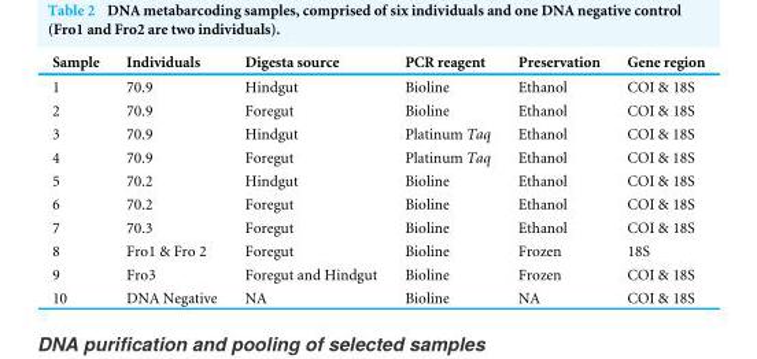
<table><thead><tr><td>Sample</td><td>Individuals</td><td>Digesta source</td><td>PCR reagent</td><td>Preservation</td><td>Gene region</td></tr></thead><tbody><tr><td>1</td><td>70.9</td><td>Hindgut</td><td>Bioline</td><td>Ethanol</td><td>COI &amp; 18S</td></tr><tr><td>2</td><td>70.9</td><td>Foregut</td><td>Bioline</td><td>Ethanol</td><td>COI &amp; 18S</td></tr><tr><td>3</td><td>70.9</td><td>Hindgut</td><td>Platinum Taq</td><td>Ethanol</td><td>COI &amp; 18S</td></tr><tr><td>4</td><td>70.9</td><td>Foregut</td><td>Platinum Taq</td><td>Ethanol</td><td>COI &amp; 18S</td></tr><tr><td>5</td><td>70.2</td><td>Hindgut</td><td>Bioline</td><td>Ethanol</td><td>COI &amp; 18S</td></tr><tr><td>6</td><td>70.2</td><td>Foregut</td><td>Bioline</td><td>Ethanol</td><td>COI &amp; 18S</td></tr><tr><td>7</td><td>70.3</td><td>Foregut</td><td>Bioline</td><td>Ethanol</td><td>COI &amp; 18S</td></tr><tr><td>8</td><td>Fro1 &amp; Fro 2</td><td>Foregut</td><td>Bioline</td><td>Frozen</td><td>18S</td></tr><tr><td>9</td><td>Fro3</td><td>Foregut and Hindgut</td><td>Bioline</td><td>Frozen</td><td>COI &amp; 18S</td></tr><tr><td>10</td><td>DNA Negative</td><td>NA</td><td>Bioline</td><td>NA</td><td>COI &amp; 18S</td></tr></tbody></table>